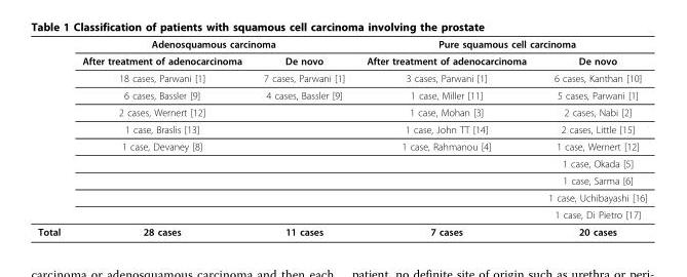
<table><thead><tr><td rowspan="11"></td><td colspan="2">Adenosquamous carcinoma</td><td colspan="2">Pure squamous cell carcinoma</td></tr><tr><td rowspan="10">After treatment of adenocarcinoma 18 cases, Parwani [1] 6 cases, Bassler [9] 2 cases, Wernert [12] 1 case, Braslis [13] 1 case, Devaney [8]</td><td rowspan="10">De novo 7 cases, Parwani [1] 4 cases, Bassler [9]</td><td rowspan="10">After treatment of adenocarcinoma 3 cases, Parwani [1] 1 case, Miller [11] 1 case, Mohan [3] 1 case, John TT [14] 1 case, Rahmanou [4]</td><td rowspan="10">De novo 6 cases, Kanthan [10] 5 cases, Parwani [1] 2 cases, Nabi [2] 2 cases, Little [15] 1 case, Wernert [12] 1 case, Okada [5] 1 case, Sarma [6] 1 case, Uchibayashi [16] 1 case, Di Pietro [17]</td></tr><tr></tr><tr></tr><tr></tr><tr></tr><tr></tr><tr></tr><tr></tr><tr></tr><tr></tr></thead><tbody><tr><td>Total</td><td>28 cases</td><td>11 cases</td><td>7 cases</td><td>20 cases</td></tr></tbody></table>